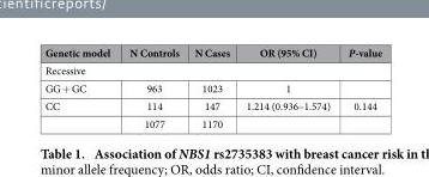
<table><thead><tr><td>Genetic model</td><td>N Controls</td><td>N Cases</td><td>OR (95% CI)</td><td>P-value</td></tr></thead><tbody><tr><td colspan="5">Recessive</td></tr><tr><td>GG + GC</td><td>963</td><td>1023</td><td>1</td><td></td></tr><tr><td rowspan="2">CC</td><td>114</td><td>147</td><td>1.214 (0.936–1.574)</td><td>0.144</td></tr><tr><td>1077</td><td>1170</td><td></td><td></td></tr></tbody></table>